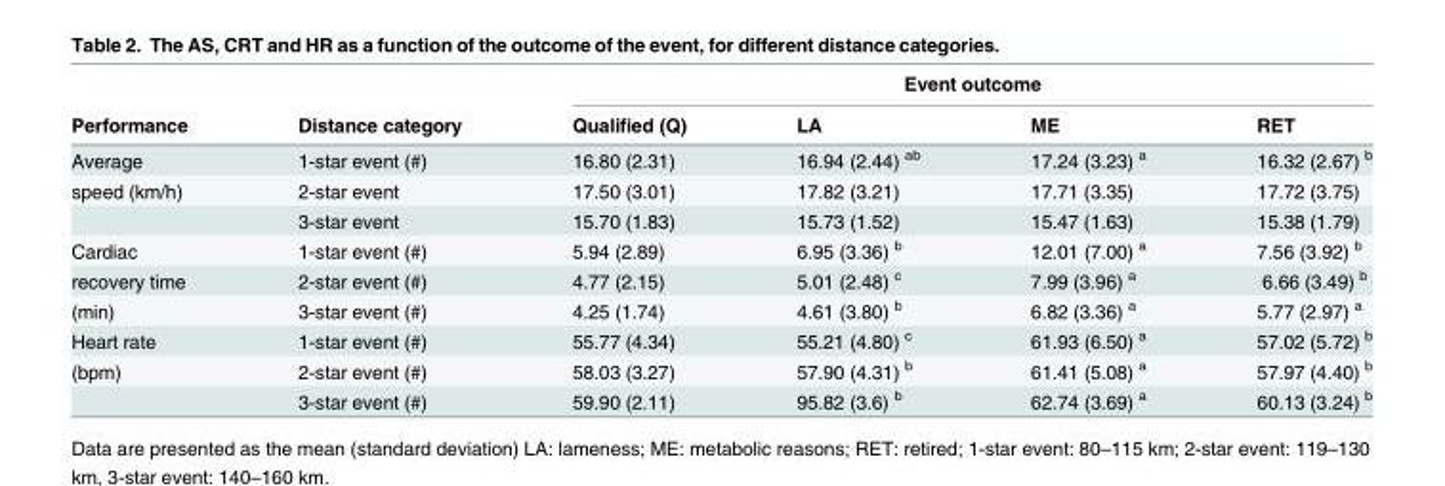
<table><thead><tr><td rowspan="2">Performance</td><td rowspan="2">Distance category</td><td colspan="4">Event outcome</td></tr><tr><td>Qualified (Q)</td><td>LA</td><td>ME</td><td>RET</td></tr></thead><tbody><tr><td>Average</td><td>1-star event (#)</td><td>16.80 (2.31)</td><td>16.94 (2.44) <sup>ab</sup></td><td>17.24 (3.23) <sup>a</sup></td><td>16.32 (2.67) <sup>b</sup></td></tr><tr><td rowspan="2">speed (km/h)</td><td>2-star event</td><td>17.50 (3.01)</td><td>17.82 (3.21)</td><td>17.71 (3.35)</td><td>17.72 (3.75)</td></tr><tr><td>3-star event</td><td>15.70 (1.83)</td><td>15.73 (1.52)</td><td>15.47 (1.63)</td><td>15.38 (1.79)</td></tr><tr><td>Cardiac</td><td>1-star event (#)</td><td>5.94 (2.89)</td><td>6.95 (3.36) <sup>b</sup></td><td>12.01 (7.00) <sup>a</sup></td><td>7.56 (3.92) <sup>b</sup></td></tr><tr><td>recovery time</td><td>2-star event (#)</td><td>4.77 (2.15)</td><td>5.01 (2.48) <sup>c</sup></td><td>7.99 (3.96) <sup>a</sup></td><td>6.66 (3.49) <sup>b</sup></td></tr><tr><td>(min)</td><td>3-star event (#)</td><td>4.25 (1.74)</td><td>4.61 (3.80) <sup>b</sup></td><td>6.82 (3.36) <sup>a</sup></td><td>5.77 (2.97) <sup>a</sup></td></tr><tr><td>Heart rate</td><td>1-star event (#)</td><td>55.77 (4.34)</td><td>55.21 (4.80) <sup>c</sup></td><td>61.93 (6.50) <sup>a</sup></td><td>57.02 (5.72) <sup>b</sup></td></tr><tr><td rowspan="2">(bpm)</td><td>2-star event (#)</td><td>58.03 (3.27)</td><td>57.90 (4.31) <sup>b</sup></td><td>61.41 (5.08) <sup>a</sup></td><td>57.97 (4.40) <sup>b</sup></td></tr><tr><td>3-star event (#)</td><td>59.90 (2.11)</td><td>95.82 (3.6) <sup>b</sup></td><td>62.74 (3.69) <sup>a</sup></td><td>60.13 (3.24) <sup>b</sup></td></tr></tbody></table>